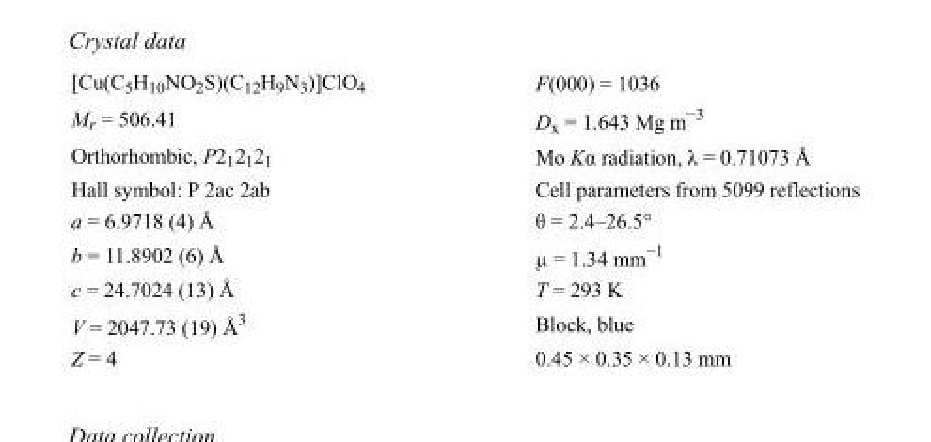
<table><tbody><tr><td>[Cu(C<sub>5</sub>H<sub>10</sub>NO<sub>2</sub>S)(C<sub>12</sub>H<sub>9</sub>N<sub>3</sub>)]ClO<sub>4</sub></td><td>F(000) = 1036</td></tr><tr><td>M<sub>r</sub> = 506.41</td><td>D<sub>x</sub> = 1.643 Mg m<sup>−3</sup></td></tr><tr><td>Orthorhombic, P2<sub>1</sub>2<sub>1</sub>2<sub>1</sub></td><td>Mo Kα radiation, λ = 0.71073 Å</td></tr><tr><td>Hall symbol: P 2ac 2ab</td><td>Cell parameters from 5099 reflections</td></tr><tr><td>a = 6.9718 (4) Å</td><td>θ = 2.4–26.5°</td></tr><tr><td>b = 11.8902 (6) Å</td><td>µ = 1.34 mm<sup>−1</sup></td></tr><tr><td>c = 24.7024 (13) Å</td><td>T = 293 K</td></tr><tr><td>V = 2047.73 (19) Å<sup>3</sup></td><td>Block, blue</td></tr><tr><td>Z = 4</td><td>0.45 × 0.35 × 0.13 mm</td></tr></tbody></table>